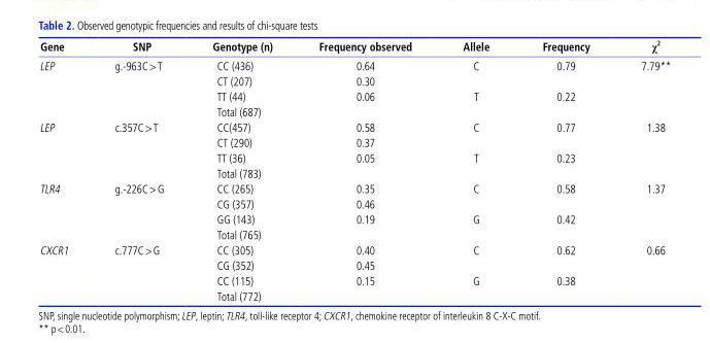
<table><thead><tr><td>Gene</td><td>SNP</td><td>Genotype (n)</td><td>Frequency observed</td><td>Allele</td><td>Frequency</td><td>χ <sup>2</sup></td></tr></thead><tbody><tr><td rowspan="4">LEP</td><td>g.-963C&gt;T</td><td>CC (436)</td><td>0.64</td><td>C</td><td>0.79</td><td>7.79**</td></tr><tr><td></td><td>CT (207)</td><td>0.30</td><td></td><td></td><td></td></tr><tr><td></td><td>TT (44)</td><td>0.06</td><td>T</td><td>0.22</td><td></td></tr><tr><td></td><td>Total (687)</td><td></td><td></td><td></td><td></td></tr><tr><td rowspan="4">LEP</td><td>c.357C&gt;T</td><td>CC(457)</td><td>0.58</td><td>C</td><td>0.77</td><td>1.38</td></tr><tr><td></td><td>CT (290)</td><td>0.37</td><td></td><td></td><td></td></tr><tr><td></td><td>TT (36)</td><td>0.05</td><td>T</td><td>0.23</td><td></td></tr><tr><td></td><td>Total (783)</td><td></td><td></td><td></td><td></td></tr><tr><td rowspan="4">TLR4</td><td>g.-226C&gt;G</td><td>CC (265)</td><td>0.35</td><td>C</td><td>0.58</td><td>1.37</td></tr><tr><td></td><td>CG (357)</td><td>0.46</td><td></td><td></td><td></td></tr><tr><td></td><td>GG (143)</td><td>0.19</td><td>G</td><td>0.42</td><td></td></tr><tr><td></td><td>Total (765)</td><td></td><td></td><td></td><td></td></tr><tr><td rowspan="4">CXCR1</td><td>c.777C&gt;G</td><td>CC (305)</td><td>0.40</td><td>C</td><td>0.62</td><td>0.66</td></tr><tr><td></td><td>CG (352)</td><td>0.45</td><td></td><td></td><td></td></tr><tr><td></td><td>CC (115)</td><td>0.15</td><td>G</td><td>0.38</td><td></td></tr><tr><td></td><td>Total (772)</td><td></td><td></td><td></td><td></td></tr></tbody></table>